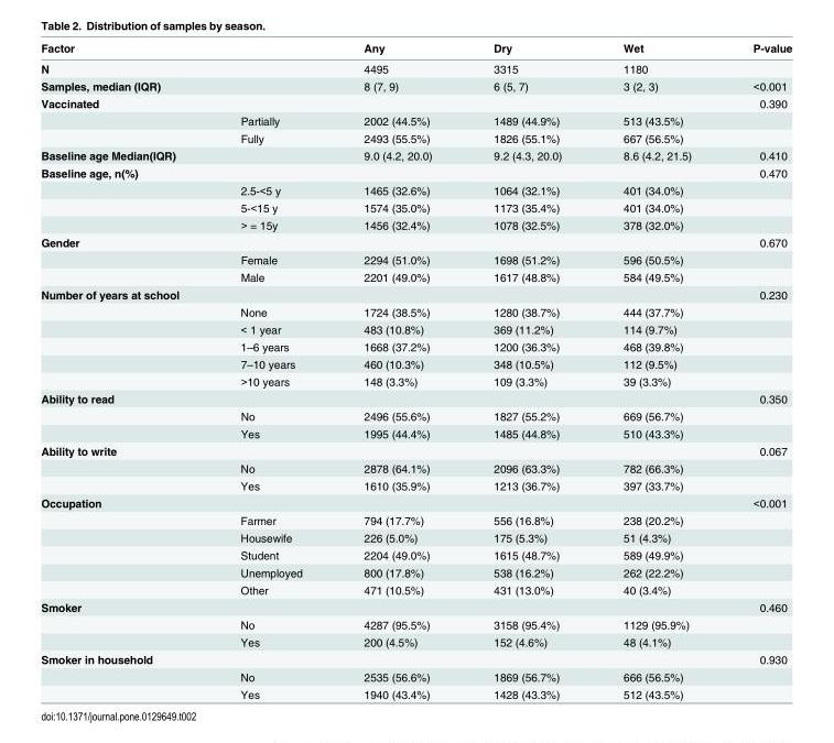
<table><thead><tr><td>Factor</td><td></td><td>Any</td><td>Dry</td><td>Wet</td><td>P-value</td></tr></thead><tbody><tr><td>N</td><td></td><td>4495</td><td>3315</td><td>1180</td><td></td></tr><tr><td>Samples, median (IQR)</td><td></td><td>8 (7, 9)</td><td>6 (5, 7)</td><td>3 (2, 3)</td><td>&lt;0.001</td></tr><tr><td rowspan="3">Vaccinated</td><td></td><td></td><td></td><td></td><td>0.390</td></tr><tr><td>Partially</td><td>2002 (44.5%)</td><td>1489 (44.9%)</td><td>513 (43.5%)</td><td></td></tr><tr><td>Fully</td><td>2493 (55.5%)</td><td>1826 (55.1%)</td><td>667 (56.5%)</td><td></td></tr><tr><td>Baseline age Median(IQR)</td><td></td><td>9.0 (4.2, 20.0)</td><td>9.2 (4.3, 20.0)</td><td>8.6 (4.2, 21.5)</td><td>0.410</td></tr><tr><td rowspan="4">Baseline age, n(%)</td><td></td><td></td><td></td><td></td><td>0.470</td></tr><tr><td>2.5-&lt;5 y</td><td>1465 (32.6%)</td><td>1064 (32.1%)</td><td>401 (34.0%)</td><td></td></tr><tr><td>5-&lt;15 y</td><td>1574 (35.0%)</td><td>1173 (35.4%)</td><td>401 (34.0%)</td><td></td></tr><tr><td>&gt; = 15y</td><td>1456 (32.4%)</td><td>1078 (32.5%)</td><td>378 (32.0%)</td><td></td></tr><tr><td rowspan="3">Gender</td><td></td><td></td><td></td><td></td><td>0.670</td></tr><tr><td>Female</td><td>2294 (51.0%)</td><td>1698 (51.2%)</td><td>596 (50.5%)</td><td></td></tr><tr><td>Male</td><td>2201 (49.0%)</td><td>1617 (48.8%)</td><td>584 (49.5%)</td><td></td></tr><tr><td rowspan="6">Number of years at school</td><td></td><td></td><td></td><td></td><td>0.230</td></tr><tr><td>None</td><td>1724 (38.5%)</td><td>1280 (38.7%)</td><td>444 (37.7%)</td><td></td></tr><tr><td>&lt; 1 year</td><td>483 (10.8%)</td><td>369 (11.2%)</td><td>114 (9.7%)</td><td></td></tr><tr><td>1–6 years</td><td>1668 (37.2%)</td><td>1200 (36.3%)</td><td>468 (39.8%)</td><td></td></tr><tr><td>7–10 years</td><td>460 (10.3%)</td><td>348 (10.5%)</td><td>112 (9.5%)</td><td></td></tr><tr><td>&gt;10 years</td><td>148 (3.3%)</td><td>109 (3.3%)</td><td>39 (3.3%)</td><td></td></tr><tr><td rowspan="3">Ability to read</td><td></td><td></td><td></td><td></td><td>0.350</td></tr><tr><td>No</td><td>2496 (55.6%)</td><td>1827 (55.2%)</td><td>669 (56.7%)</td><td></td></tr><tr><td>Yes</td><td>1995 (44.4%)</td><td>1485 (44.8%)</td><td>510 (43.3%)</td><td></td></tr><tr><td rowspan="3">Ability to write</td><td></td><td></td><td></td><td></td><td>0.067</td></tr><tr><td>No</td><td>2878 (64.1%)</td><td>2096 (63.3%)</td><td>782 (66.3%)</td><td></td></tr><tr><td>Yes</td><td>1610 (35.9%)</td><td>1213 (36.7%)</td><td>397 (33.7%)</td><td></td></tr><tr><td rowspan="6">Occupation</td><td></td><td></td><td></td><td></td><td>&lt;0.001</td></tr><tr><td>Farmer</td><td>794 (17.7%)</td><td>556 (16.8%)</td><td>238 (20.2%)</td><td></td></tr><tr><td>Housewife</td><td>226 (5.0%)</td><td>175 (5.3%)</td><td>51 (4.3%)</td><td></td></tr><tr><td>Student</td><td>2204 (49.0%)</td><td>1615 (48.7%)</td><td>589 (49.9%)</td><td></td></tr><tr><td>Unemployed</td><td>800 (17.8%)</td><td>538 (16.2%)</td><td>262 (22.2%)</td><td></td></tr><tr><td>Other</td><td>471 (10.5%)</td><td>431 (13.0%)</td><td>40 (3.4%)</td><td></td></tr><tr><td rowspan="3">Smoker</td><td></td><td></td><td></td><td></td><td>0.460</td></tr><tr><td>No</td><td>4287 (95.5%)</td><td>3158 (95.4%)</td><td>1129 (95.9%)</td><td></td></tr><tr><td>Yes</td><td>200 (4.5%)</td><td>152 (4.6%)</td><td>48 (4.1%)</td><td></td></tr><tr><td rowspan="3">Smoker in household</td><td></td><td></td><td></td><td></td><td>0.930</td></tr><tr><td>No</td><td>2535 (56.6%)</td><td>1869 (56.7%)</td><td>666 (56.5%)</td><td></td></tr><tr><td>Yes</td><td>1940 (43.4%)</td><td>1428 (43.3%)</td><td>512 (43.5%)</td><td></td></tr></tbody></table>